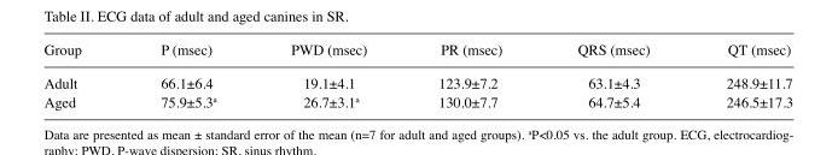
<table><thead><tr><td>Group</td><td>P (msec)</td><td>PWD (msec)</td><td>PR (msec)</td><td>QRS (msec)</td><td>QT (msec)</td></tr></thead><tbody><tr><td>Adult</td><td>66.1±6.4</td><td>19.1±4.1</td><td>123.9±7.2</td><td>63.1±4.3</td><td>248.9±11.7</td></tr><tr><td>Aged</td><td>75.9±5.3<sup>a</sup></td><td>26.7±3.1<sup>a</sup></td><td>130.0±7.7</td><td>64.7±5.4</td><td>246.5±17.3</td></tr></tbody></table>